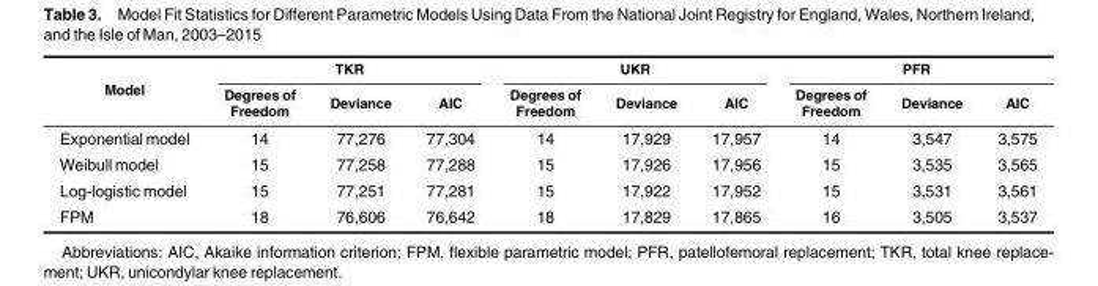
<table><thead><tr><td rowspan="2">Model</td><td colspan="3">TKR</td><td colspan="3">UKR</td><td colspan="3">PFR</td></tr><tr><td>Degrees of Freedom</td><td>Deviance</td><td>AIC</td><td>Degrees of Freedom</td><td>Deviance</td><td>AIC</td><td>Degrees of Freedom</td><td>Deviance</td><td>AIC</td></tr></thead><tbody><tr><td>Exponential model</td><td>14</td><td>77,276</td><td>77,304</td><td>14</td><td>17,929</td><td>17,957</td><td>14</td><td>3,547</td><td>3,575</td></tr><tr><td>Weibull model</td><td>15</td><td>77,258</td><td>77,288</td><td>15</td><td>17,926</td><td>17,956</td><td>15</td><td>3,535</td><td>3,565</td></tr><tr><td>Log-logistic model</td><td>15</td><td>77,251</td><td>77,281</td><td>15</td><td>17,922</td><td>17,952</td><td>15</td><td>3,531</td><td>3,561</td></tr><tr><td>FPM</td><td>18</td><td>76,606</td><td>76,642</td><td>18</td><td>17,829</td><td>17,865</td><td>16</td><td>3,505</td><td>3,537</td></tr></tbody></table>